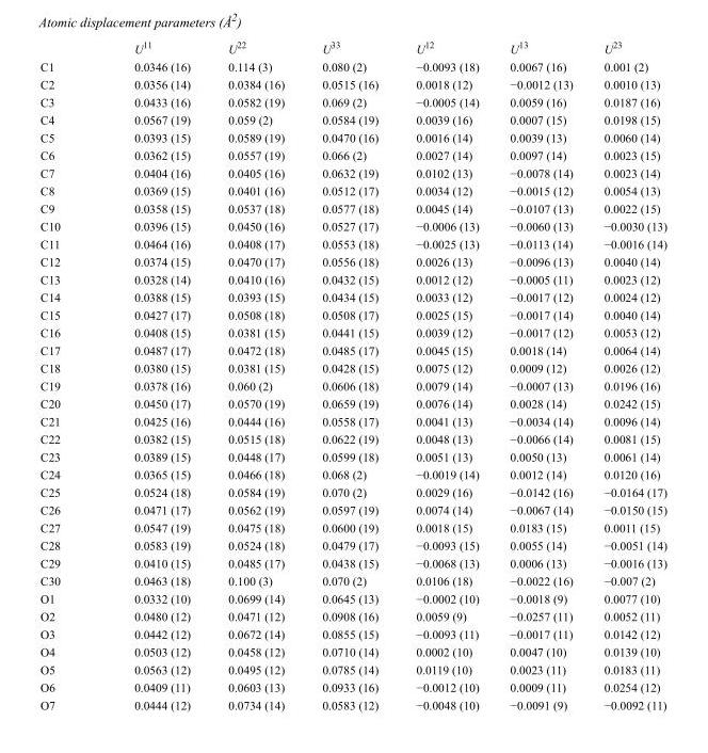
<table><thead><tr><td></td><td>U<sup>11</sup></td><td>U<sup>22</sup></td><td>U<sup>33</sup></td><td>U<sup>12</sup></td><td>U<sup>13</sup></td><td>U<sup>23</sup></td></tr></thead><tbody><tr><td>C1</td><td>0.0346 (16)</td><td>0.114 (3)</td><td>0.080 (2)</td><td>−0.0093 (18)</td><td>0.0067 (16)</td><td>0.001 (2)</td></tr><tr><td>C2</td><td>0.0356 (14)</td><td>0.0384 (16)</td><td>0.0515 (16)</td><td>0.0018 (12)</td><td>−0.0012 (13)</td><td>0.0010 (13)</td></tr><tr><td>C3</td><td>0.0433 (16)</td><td>0.0582 (19)</td><td>0.069 (2)</td><td>−0.0005 (14)</td><td>0.0059 (16)</td><td>0.0187 (16)</td></tr><tr><td>C4</td><td>0.0567 (19)</td><td>0.059 (2)</td><td>0.0584 (19)</td><td>0.0039 (16)</td><td>0.0007 (15)</td><td>0.0198 (15)</td></tr><tr><td>C5</td><td>0.0393 (15)</td><td>0.0589 (19)</td><td>0.0470 (16)</td><td>0.0016 (14)</td><td>0.0039 (13)</td><td>0.0060 (14)</td></tr><tr><td>C6</td><td>0.0362 (15)</td><td>0.0557 (19)</td><td>0.066 (2)</td><td>0.0027 (14)</td><td>0.0097 (14)</td><td>0.0023 (15)</td></tr><tr><td>C7</td><td>0.0404 (16)</td><td>0.0405 (16)</td><td>0.0632 (19)</td><td>0.0102 (13)</td><td>−0.0078 (14)</td><td>0.0023 (14)</td></tr><tr><td>C8</td><td>0.0369 (15)</td><td>0.0401 (16)</td><td>0.0512 (17)</td><td>0.0034 (12)</td><td>−0.0015 (12)</td><td>0.0054 (13)</td></tr><tr><td>C9</td><td>0.0358 (15)</td><td>0.0537 (18)</td><td>0.0577 (18)</td><td>0.0045 (14)</td><td>−0.0107 (13)</td><td>0.0022 (15)</td></tr><tr><td>C10</td><td>0.0396 (15)</td><td>0.0450 (16)</td><td>0.0527 (17)</td><td>−0.0006 (13)</td><td>−0.0060 (13)</td><td>−0.0030 (13)</td></tr><tr><td>C11</td><td>0.0464 (16)</td><td>0.0408 (17)</td><td>0.0553 (18)</td><td>−0.0025 (13)</td><td>−0.0113 (14)</td><td>−0.0016 (14)</td></tr><tr><td>C12</td><td>0.0374 (15)</td><td>0.0470 (17)</td><td>0.0556 (18)</td><td>0.0026 (13)</td><td>−0.0096 (13)</td><td>0.0040 (14)</td></tr><tr><td>C13</td><td>0.0328 (14)</td><td>0.0410 (16)</td><td>0.0432 (15)</td><td>0.0012 (12)</td><td>−0.0005 (11)</td><td>0.0023 (12)</td></tr><tr><td>C14</td><td>0.0388 (15)</td><td>0.0393 (15)</td><td>0.0434 (15)</td><td>0.0033 (12)</td><td>−0.0017 (12)</td><td>0.0024 (12)</td></tr><tr><td>C15</td><td>0.0427 (17)</td><td>0.0508 (18)</td><td>0.0508 (17)</td><td>0.0025 (15)</td><td>−0.0017 (14)</td><td>0.0040 (14)</td></tr><tr><td>C16</td><td>0.0408 (15)</td><td>0.0381 (15)</td><td>0.0441 (15)</td><td>0.0039 (12)</td><td>−0.0017 (12)</td><td>0.0053 (12)</td></tr><tr><td>C17</td><td>0.0487 (17)</td><td>0.0472 (18)</td><td>0.0485 (17)</td><td>0.0045 (15)</td><td>0.0018 (14)</td><td>0.0064 (14)</td></tr><tr><td>C18</td><td>0.0380 (15)</td><td>0.0381 (15)</td><td>0.0428 (15)</td><td>0.0075 (12)</td><td>0.0009 (12)</td><td>0.0026 (12)</td></tr><tr><td>C19</td><td>0.0378 (16)</td><td>0.060 (2)</td><td>0.0606 (18)</td><td>0.0079 (14)</td><td>−0.0007 (13)</td><td>0.0196 (16)</td></tr><tr><td>C20</td><td>0.0450 (17)</td><td>0.0570 (19)</td><td>0.0659 (19)</td><td>0.0076 (14)</td><td>0.0028 (14)</td><td>0.0242 (15)</td></tr><tr><td>C21</td><td>0.0425 (16)</td><td>0.0444 (16)</td><td>0.0558 (17)</td><td>0.0041 (13)</td><td>−0.0034 (14)</td><td>0.0096 (14)</td></tr><tr><td>C22</td><td>0.0382 (15)</td><td>0.0515 (18)</td><td>0.0622 (19)</td><td>0.0048 (13)</td><td>−0.0066 (14)</td><td>0.0081 (15)</td></tr><tr><td>C23</td><td>0.0389 (15)</td><td>0.0448 (17)</td><td>0.0599 (18)</td><td>0.0051 (13)</td><td>0.0050 (13)</td><td>0.0061 (14)</td></tr><tr><td>C24</td><td>0.0365 (15)</td><td>0.0466 (18)</td><td>0.068 (2)</td><td>−0.0019 (14)</td><td>0.0012 (14)</td><td>0.0120 (16)</td></tr><tr><td>C25</td><td>0.0524 (18)</td><td>0.0584 (19)</td><td>0.070 (2)</td><td>0.0029 (16)</td><td>−0.0142 (16)</td><td>−0.0164 (17)</td></tr><tr><td>C26</td><td>0.0471 (17)</td><td>0.0562 (19)</td><td>0.0597 (19)</td><td>0.0074 (14)</td><td>−0.0067 (14)</td><td>−0.0150 (15)</td></tr><tr><td>C27</td><td>0.0547 (19)</td><td>0.0475 (18)</td><td>0.0600 (19)</td><td>0.0018 (15)</td><td>0.0183 (15)</td><td>0.0011 (15)</td></tr><tr><td>C28</td><td>0.0583 (19)</td><td>0.0524 (18)</td><td>0.0479 (17)</td><td>−0.0093 (15)</td><td>0.0055 (14)</td><td>−0.0051 (14)</td></tr><tr><td>C29</td><td>0.0410 (15)</td><td>0.0485 (17)</td><td>0.0438 (15)</td><td>−0.0068 (13)</td><td>0.0006 (13)</td><td>−0.0016 (13)</td></tr><tr><td>C30</td><td>0.0463 (18)</td><td>0.100 (3)</td><td>0.070 (2)</td><td>0.0106 (18)</td><td>−0.0022 (16)</td><td>−0.007 (2)</td></tr><tr><td>O1</td><td>0.0332 (10)</td><td>0.0699 (14)</td><td>0.0645 (13)</td><td>−0.0002 (10)</td><td>−0.0018 (9)</td><td>0.0077 (10)</td></tr><tr><td>O2</td><td>0.0480 (12)</td><td>0.0471 (12)</td><td>0.0908 (16)</td><td>0.0059 (9)</td><td>−0.0257 (11)</td><td>0.0052 (11)</td></tr><tr><td>O3</td><td>0.0442 (12)</td><td>0.0672 (14)</td><td>0.0855 (15)</td><td>−0.0093 (11)</td><td>−0.0017 (11)</td><td>0.0142 (12)</td></tr><tr><td>O4</td><td>0.0503 (12)</td><td>0.0458 (12)</td><td>0.0710 (14)</td><td>0.0002 (10)</td><td>0.0047 (10)</td><td>0.0139 (10)</td></tr><tr><td>O5</td><td>0.0563 (12)</td><td>0.0495 (12)</td><td>0.0785 (14)</td><td>0.0119 (10)</td><td>0.0023 (11)</td><td>0.0183 (11)</td></tr><tr><td>O6</td><td>0.0409 (11)</td><td>0.0603 (13)</td><td>0.0933 (16)</td><td>−0.0012 (10)</td><td>0.0009 (11)</td><td>0.0254 (12)</td></tr><tr><td>O7</td><td>0.0444 (12)</td><td>0.0734 (14)</td><td>0.0583 (12)</td><td>−0.0048 (10)</td><td>−0.0091 (9)</td><td>−0.0092 (11)</td></tr></tbody></table>